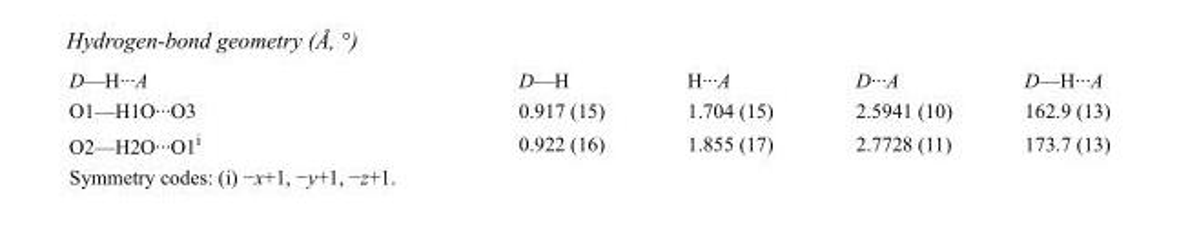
<table><tbody><tr><td>D—H···A</td><td>D—H</td><td>H···A</td><td>D···A</td><td>D—H···A</td></tr><tr><td>O1—H1O···O3</td><td>0.917 (15)</td><td>1.704 (15)</td><td>2.5941 (10)</td><td>162.9 (13)</td></tr><tr><td>O2—H2O···O1<sup>i</sup></td><td>0.922 (16)</td><td>1.855 (17)</td><td>2.7728 (11)</td><td>173.7 (13)</td></tr></tbody></table>